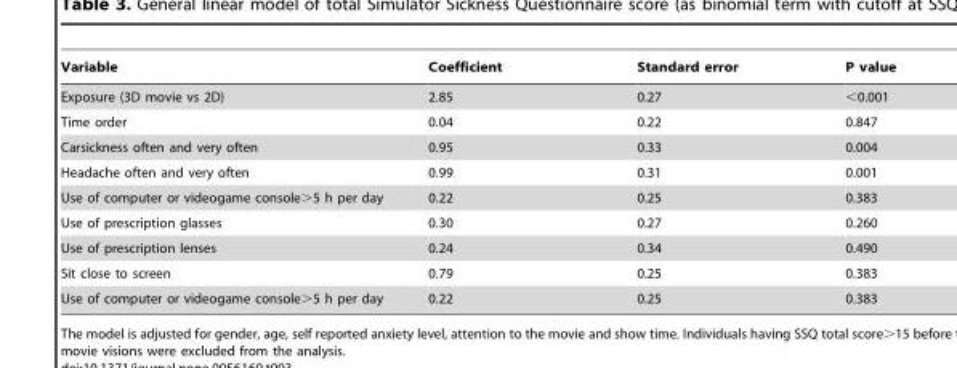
<table><thead><tr><td>Variable</td><td>Coefficient</td><td>Standard error</td><td>P value</td></tr></thead><tbody><tr><td>Exposure (3D movie vs 2D)</td><td>2.85</td><td>0.27</td><td>&lt;0.001</td></tr><tr><td>Time order</td><td>0.04</td><td>0.22</td><td>0.847</td></tr><tr><td>Carsickness often and very often</td><td>0.95</td><td>0.33</td><td>0.004</td></tr><tr><td>Headache often and very often</td><td>0.99</td><td>0.31</td><td>0.001</td></tr><tr><td>Use of computer or videogame console&gt;5 h per day</td><td>0.22</td><td>0.25</td><td>0.383</td></tr><tr><td>Use of prescription glasses</td><td>0.30</td><td>0.27</td><td>0.260</td></tr><tr><td>Use of prescription lenses</td><td>0.24</td><td>0.34</td><td>0.490</td></tr><tr><td>Sit close to screen</td><td>0.79</td><td>0.25</td><td>0.383</td></tr><tr><td>Use of computer or videogame console&gt;5 h per day</td><td>0.22</td><td>0.25</td><td>0.383</td></tr></tbody></table>